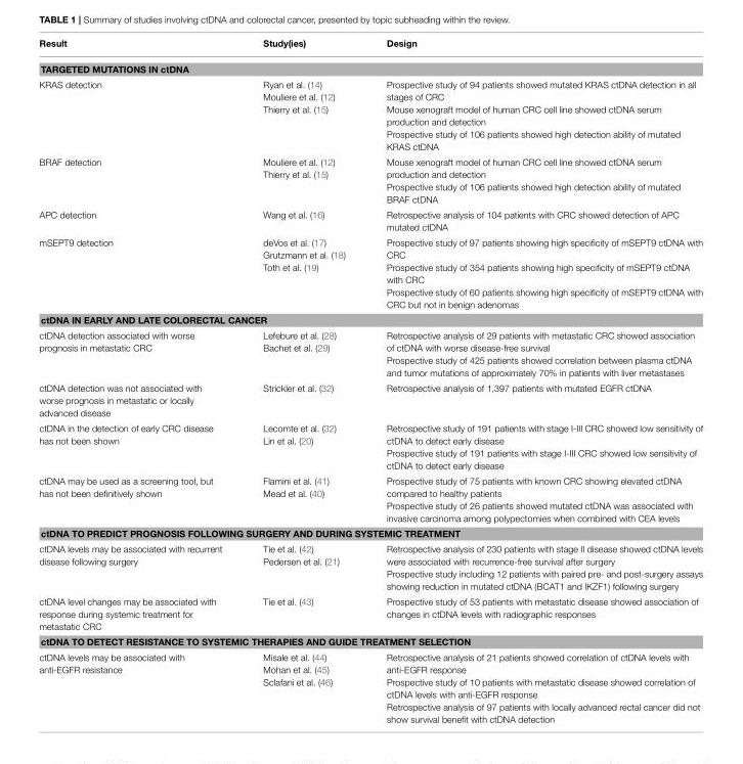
<table><thead><tr><td>Result</td><td>Study(ies)</td><td>Design</td></tr></thead><tbody><tr><td colspan="3">TARGETED MUTATIONS IN ctDNA</td></tr><tr><td>KRAS detection</td><td>Ryan et al. (14) Mouliere et al. (12) Thierry et al. (15)</td><td>Prospective study of 94 patients showed mutated KRAS ctDNA detection in all stages of CRC Mouse xenograft model of human CRC cell line showed ctDNA serum production and detection Prospective study of 106 patients showed high detection ability of mutated KRAS ctDNA</td></tr><tr><td>BRAF detection</td><td>Mouliere et al. (12) Thierry et al. (15)</td><td>Mouse xenograft model of human CRC cell line showed ctDNA serum production and detection Prospective study of 106 patients showed high detection ability of mutated BRAF ctDNA</td></tr><tr><td>APC detection</td><td>Wang et al. (16)</td><td>Retrospective analysis of 104 patients with CRC showed detection of APC mutated ctDNA</td></tr><tr><td>mSEPT9 detection</td><td>deVos et al. (17) Grutzmann et al. (18) Toth et al. (19)</td><td>Prospective study of 97 patients showing high specificity of mSEPT9 ctDNA with CRC Prospective study of 354 patients showing high specificity of mSEPT9 ctDNA with CRC Prospective study of 60 patients showing high specificity of mSEPT9 ctDNA with CRC but not in benign adenomas</td></tr><tr><td colspan="3">ctDNA IN EARLY AND LATE COLORECTAL CANCER</td></tr><tr><td>ctDNA detection associated with worse prognosis in metastatic CRC</td><td>Lefebure et al. (28) Bachet et al. (29)</td><td>Retrospective analysis of 29 patients with metastatic CRC showed association of ctDNA with worse disease-free survival Prospective study of 425 patients showed correlation between plasma ctDNA and tumor mutations of approximately 70% in patients with liver metastases</td></tr><tr><td>ctDNA detection was not associated with worse prognosis in metastatic or locally advanced disease</td><td>Strickler et al. (32)</td><td>Retrospective analysis of 1,397 patients with mutated EGFR ctDNA</td></tr><tr><td>ctDNA in the detection of early CRC disease has not been shown</td><td>Lecomte et al. (32) Lin et al. (20)</td><td>Retrospective study of 191 patients with stage I-III CRC showed low sensitivity of ctDNA to detect early disease Prospective study of 191 patients with stage I-III CRC showed low sensitivity of ctDNA to detect early disease</td></tr><tr><td>ctDNA may be used as a screening tool, but has not been definitively shown</td><td>Flamini et al. (41) Mead et al. (40)</td><td>Prospective study of 75 patients with known CRC showing elevated ctDNA compared to healthy patients Prospective study of 26 patients showed mutated ctDNA was associated with invasive carcinoma among polypectomies when combined with CEA levels</td></tr><tr><td colspan="3">ctDNA TO PREDICT PROGNOSIS FOLLOWING SURGERY AND DURING SYSTEMIC TREATMENT</td></tr><tr><td>ctDNA levels may be associated with recurrent disease following surgery</td><td>Tie et al. (42) Pedersen et al. (21)</td><td>Retrospective analysis of 230 patients with stage II disease showed ctDNA levels were associated with recurrence-free survival after surgery Prospective study including 12 patients with paired pre- and post-surgery assays showing reduction in mutated ctDNA (BCAT1 and IKZF1) following surgery</td></tr><tr><td>ctDNA level changes may be associated with response during systemic treatment for metastatic CRC</td><td>Tie et al. (43)</td><td>Prospective study of 53 patients with metastatic disease showed association of changes in ctDNA levels with radiographic responses</td></tr><tr><td colspan="3">ctDNA TO DETECT RESISTANCE TO SYSTEMIC THERAPIES AND GUIDE TREATMENT SELECTION</td></tr><tr><td>ctDNA levels may be associated with anti-EGFR resistance</td><td>Misale et al. (44) Mohan et al. (45) Sclafani et al. (46)</td><td>Retrospective analysis of 21 patients showed correlation of ctDNA levels with anti-EGFR response Prospective study of 10 patients with metastatic disease showed correlation of ctDNA levels with anti-EGFR response Retrospective analysis of 97 patients with locally advanced rectal cancer did not show survival benefit with ctDNA detection</td></tr></tbody></table>